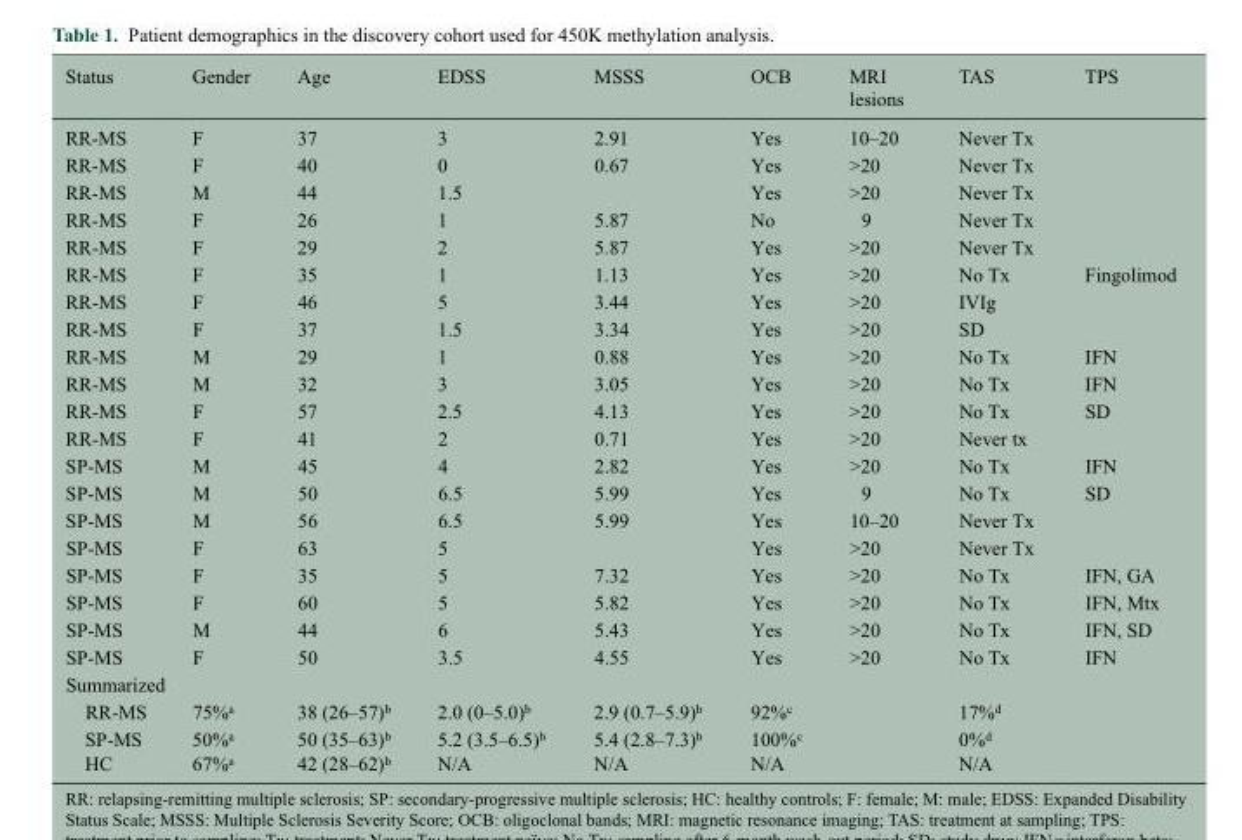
<table><thead><tr><td>Status</td><td>Gender</td><td>Age</td><td>EDSS</td><td>MSSS</td><td>OCB</td><td>MRI lesions</td><td>TAS</td><td>TPS</td></tr></thead><tbody><tr><td>RR-MS</td><td>F</td><td>37</td><td>3</td><td>2.91</td><td>Yes</td><td>10–20</td><td>Never Tx</td><td></td></tr><tr><td>RR-MS</td><td>F</td><td>40</td><td>0</td><td>0.67</td><td>Yes</td><td>&gt;20</td><td>Never Tx</td><td></td></tr><tr><td>RR-MS</td><td>M</td><td>44</td><td>1.5</td><td></td><td>Yes</td><td>&gt;20</td><td>Never Tx</td><td></td></tr><tr><td>RR-MS</td><td>F</td><td>26</td><td>1</td><td>5.87</td><td>No</td><td>9</td><td>Never Tx</td><td></td></tr><tr><td>RR-MS</td><td>F</td><td>29</td><td>2</td><td>5.87</td><td>Yes</td><td>&gt;20</td><td>Never Tx</td><td></td></tr><tr><td>RR-MS</td><td>F</td><td>35</td><td>1</td><td>1.13</td><td>Yes</td><td>&gt;20</td><td>No Tx</td><td>Fingolimod</td></tr><tr><td>RR-MS</td><td>F</td><td>46</td><td>5</td><td>3.44</td><td>Yes</td><td>&gt;20</td><td>IVIg</td><td></td></tr><tr><td>RR-MS</td><td>F</td><td>37</td><td>1.5</td><td>3.34</td><td>Yes</td><td>&gt;20</td><td>SD</td><td></td></tr><tr><td>RR-MS</td><td>M</td><td>29</td><td>1</td><td>0.88</td><td>Yes</td><td>&gt;20</td><td>No Tx</td><td>IFN</td></tr><tr><td>RR-MS</td><td>M</td><td>32</td><td>3</td><td>3.05</td><td>Yes</td><td>&gt;20</td><td>No Tx</td><td>IFN</td></tr><tr><td>RR-MS</td><td>F</td><td>57</td><td>2.5</td><td>4.13</td><td>Yes</td><td>&gt;20</td><td>No Tx</td><td>SD</td></tr><tr><td>RR-MS</td><td>F</td><td>41</td><td>2</td><td>0.71</td><td>Yes</td><td>&gt;20</td><td>Never tx</td><td></td></tr><tr><td>SP-MS</td><td>M</td><td>45</td><td>4</td><td>2.82</td><td>Yes</td><td>&gt;20</td><td>No Tx</td><td>IFN</td></tr><tr><td>SP-MS</td><td>M</td><td>50</td><td>6.5</td><td>5.99</td><td>Yes</td><td>9</td><td>No Tx</td><td>SD</td></tr><tr><td>SP-MS</td><td>M</td><td>56</td><td>6.5</td><td>5.99</td><td>Yes</td><td>10–20</td><td>Never Tx</td><td></td></tr><tr><td>SP-MS</td><td>F</td><td>63</td><td>5</td><td></td><td>Yes</td><td>&gt;20</td><td>Never Tx</td><td></td></tr><tr><td>SP-MS</td><td>F</td><td>35</td><td>5</td><td>7.32</td><td>Yes</td><td>&gt;20</td><td>No Tx</td><td>IFN, GA</td></tr><tr><td>SP-MS</td><td>F</td><td>60</td><td>5</td><td>5.82</td><td>Yes</td><td>&gt;20</td><td>No Tx</td><td>IFN, Mtx</td></tr><tr><td>SP-MS</td><td>M</td><td>44</td><td>6</td><td>5.43</td><td>Yes</td><td>&gt;20</td><td>No Tx</td><td>IFN, SD</td></tr><tr><td>SP-MS</td><td>F</td><td>50</td><td>3.5</td><td>4.55</td><td>Yes</td><td>&gt;20</td><td>No Tx</td><td>IFN</td></tr><tr><td colspan="9">Summarized</td></tr><tr><td>RR-MS</td><td>75%<sup>a</sup></td><td>38 (26–57)<sup>b</sup></td><td>2.0 (0–5.0)<sup>b</sup></td><td>2.9 (0.7–5.9)<sup>b</sup></td><td>92%<sup>c</sup></td><td></td><td>17%<sup>d</sup></td><td></td></tr><tr><td>SP-MS</td><td>50%<sup>a</sup></td><td>50 (35–63)<sup>b</sup></td><td>5.2 (3.5–6.5)<sup>b</sup></td><td>5.4 (2.8–7.3)<sup>b</sup></td><td>100%<sup>c</sup></td><td></td><td>0%<sup>d</sup></td><td></td></tr><tr><td>HC</td><td>67%<sup>a</sup></td><td>42 (28–62)<sup>b</sup></td><td>N/A</td><td>N/A</td><td>N/A</td><td></td><td>N/A</td><td></td></tr></tbody></table>